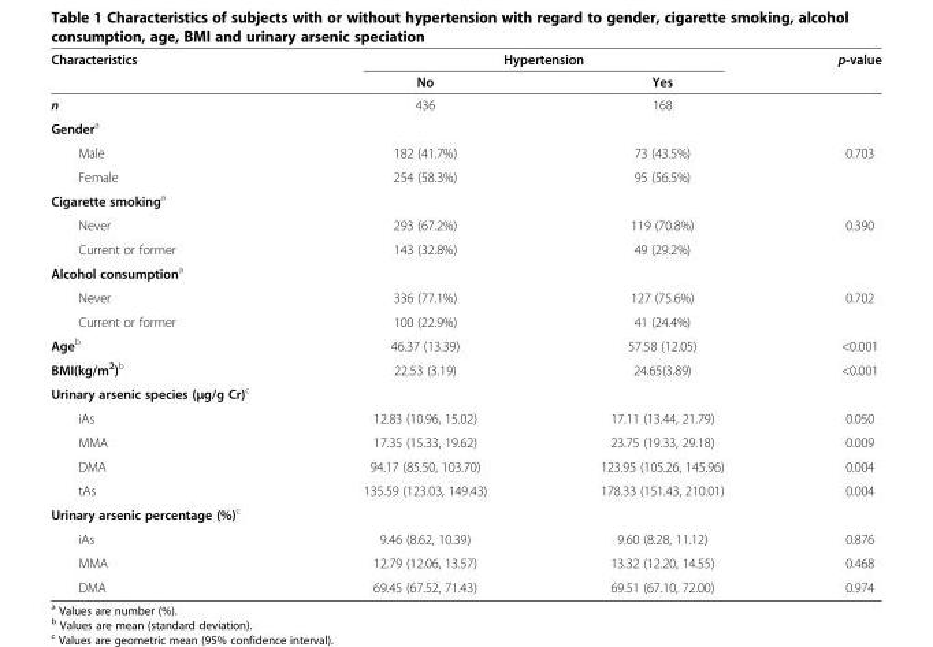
<table><thead><tr><td rowspan="2">Characteristics</td><td colspan="2">Hypertension</td><td rowspan="2">p-value</td></tr><tr><td>No</td><td>Yes</td></tr></thead><tbody><tr><td>n</td><td>436</td><td>168</td><td></td></tr><tr><td colspan="4">Gender<sup>a</sup></td></tr><tr><td>Male</td><td>182 (41.7%)</td><td>73 (43.5%)</td><td>0.703</td></tr><tr><td>Female</td><td>254 (58.3%)</td><td>95 (56.5%)</td><td></td></tr><tr><td colspan="4">Cigarette smoking<sup>a</sup></td></tr><tr><td>Never</td><td>293 (67.2%)</td><td>119 (70.8%)</td><td>0.390</td></tr><tr><td>Current or former</td><td>143 (32.8%)</td><td>49 (29.2%)</td><td></td></tr><tr><td colspan="4">Alcohol consumption<sup>a</sup></td></tr><tr><td>Never</td><td>336 (77.1%)</td><td>127 (75.6%)</td><td>0.702</td></tr><tr><td>Current or former</td><td>100 (22.9%)</td><td>41 (24.4%)</td><td></td></tr><tr><td>Age<sup>b</sup></td><td>46.37 (13.39)</td><td>57.58 (12.05)</td><td>&lt;0.001</td></tr><tr><td>BMI(kg/m<sup>2</sup>)<sup>b</sup></td><td>22.53 (3.19)</td><td>24.65(3.89)</td><td>&lt;0.001</td></tr><tr><td colspan="4">Urinary arsenic species (μg/g Cr)<sup>c</sup></td></tr><tr><td>iAs</td><td>12.83 (10.96, 15.02)</td><td>17.11 (13.44, 21.79)</td><td>0.050</td></tr><tr><td>MMA</td><td>17.35 (15.33, 19.62)</td><td>23.75 (19.33, 29.18)</td><td>0.009</td></tr><tr><td>DMA</td><td>94.17 (85.50, 103.70)</td><td>123.95 (105.26, 145.96)</td><td>0.004</td></tr><tr><td>tAs</td><td>135.59 (123.03, 149.43)</td><td>178.33 (151.43, 210.01)</td><td>0.004</td></tr><tr><td colspan="4">Urinary arsenic percentage (%)<sup>c</sup></td></tr><tr><td>iAs</td><td>9.46 (8.62, 10.39)</td><td>9.60 (8.28, 11.12)</td><td>0.876</td></tr><tr><td>MMA</td><td>12.79 (12.06, 13.57)</td><td>13.32 (12.20, 14.55)</td><td>0.468</td></tr><tr><td>DMA</td><td>69.45 (67.52, 71.43)</td><td>69.51 (67.10, 72.00)</td><td>0.974</td></tr></tbody></table>